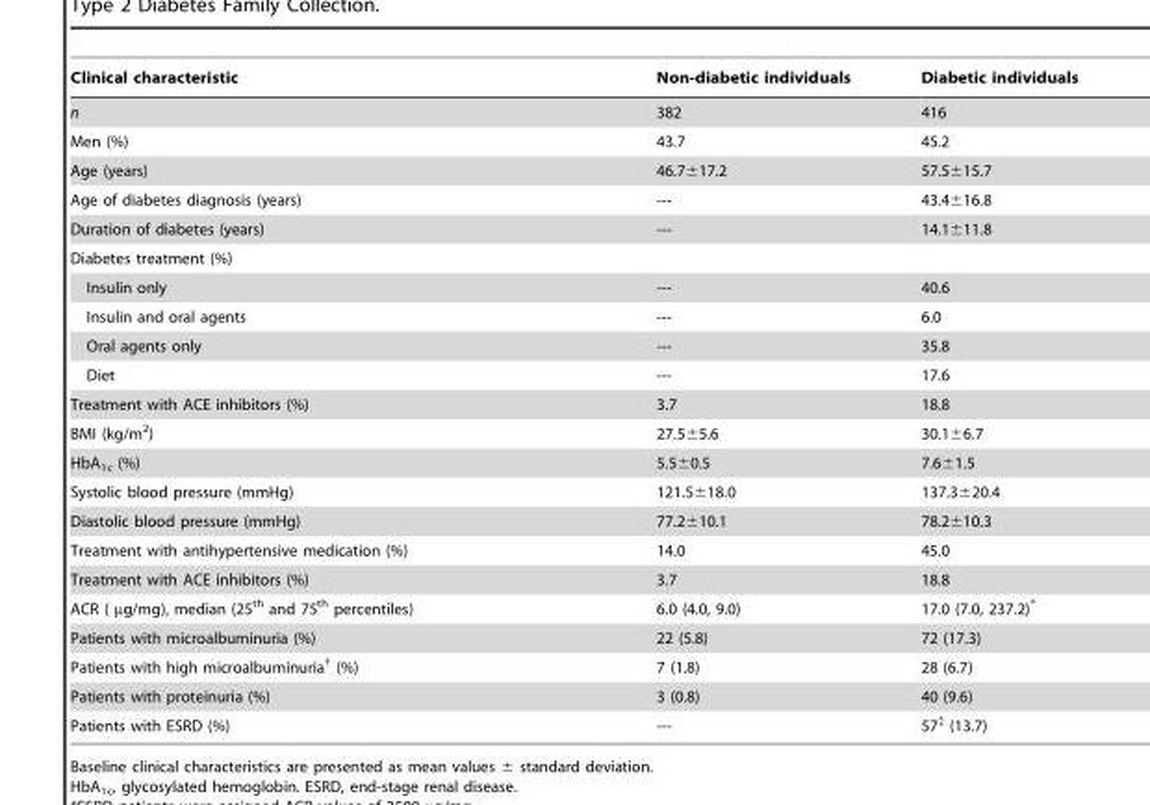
<table><thead><tr><td>Clinical characteristic</td><td>Non-diabetic individuals</td><td>Diabetic individuals</td></tr></thead><tbody><tr><td>n</td><td>382</td><td>416</td></tr><tr><td>Men (%)</td><td>43.7</td><td>45.2</td></tr><tr><td>Age (years)</td><td>46.7±17.2</td><td>57.5±15.7</td></tr><tr><td>Age of diabetes diagnosis (years)</td><td>---</td><td>43.4±16.8</td></tr><tr><td>Duration of diabetes (years)</td><td>---</td><td>14.1±11.8</td></tr><tr><td colspan="3">Diabetes treatment (%)</td></tr><tr><td>Insulin only</td><td>---</td><td>40.6</td></tr><tr><td>Insulin and oral agents</td><td>---</td><td>6.0</td></tr><tr><td>Oral agents only</td><td>---</td><td>35.8</td></tr><tr><td>Diet</td><td>---</td><td>17.6</td></tr><tr><td>Treatment with ACE inhibitors (%)</td><td>3.7</td><td>18.8</td></tr><tr><td>BMI (kg/m<sup>2</sup>)</td><td>27.5±5.6</td><td>30.1±6.7</td></tr><tr><td>HbA<sub>1c</sub> (%)</td><td>5.5±0.5</td><td>7.6±1.5</td></tr><tr><td>Systolic blood pressure (mmHg)</td><td>121.5±18.0</td><td>137.3±20.4</td></tr><tr><td>Diastolic blood pressure (mmHg)</td><td>77.2±10.1</td><td>78.2±10.3</td></tr><tr><td>Treatment with antihypertensive medication (%)</td><td>14.0</td><td>45.0</td></tr><tr><td>Treatment with ACE inhibitors (%)</td><td>3.7</td><td>18.8</td></tr><tr><td>ACR ( µg/mg), median (25<sup>th</sup> and 75<sup>th</sup> percentiles)</td><td>6.0 (4.0, 9.0)</td><td>17.0 (7.0, 237.2)*</td></tr><tr><td>Patients with microalbuminuria (%)</td><td>22 (5.8)</td><td>72 (17.3)</td></tr><tr><td>Patients with high microalbuminuria† (%)</td><td>7 (1.8)</td><td>28 (6.7)</td></tr><tr><td>Patients with proteinuria (%)</td><td>3 (0.8)</td><td>40 (9.6)</td></tr><tr><td>Patients with ESRD (%)</td><td>---</td><td>57‡ (13.7)</td></tr></tbody></table>